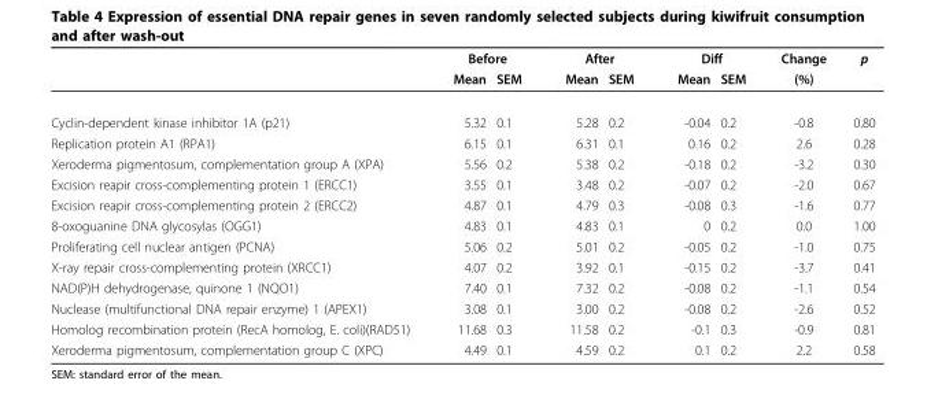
<table><thead><tr><td rowspan="2"></td><td colspan="2">Before</td><td colspan="2">After</td><td colspan="2">Diff</td><td rowspan="2">Change (%)</td><td rowspan="2">p</td></tr><tr><td>Mean</td><td>SEM</td><td>Mean</td><td>SEM</td><td>Mean</td><td>SEM</td></tr></thead><tbody><tr><td>Cyclin-dependent kinase inhibitor 1A (p21)</td><td>5.32</td><td>0.1</td><td>5.28</td><td>0.2</td><td>-0.04</td><td>0.2</td><td>-0.8</td><td>0.80</td></tr><tr><td>Replication protein A1 (RPA1)</td><td>6.15</td><td>0.1</td><td>6.31</td><td>0.1</td><td>0.16</td><td>0.2</td><td>2.6</td><td>0.28</td></tr><tr><td>Xeroderma pigmentosum, complementation group A (XPA)</td><td>5.56</td><td>0.2</td><td>5.38</td><td>0.2</td><td>-0.18</td><td>0.2</td><td>-3.2</td><td>0.30</td></tr><tr><td>Excision reapir cross-complementing protein 1 (ERCC1)</td><td>3.55</td><td>0.1</td><td>3.48</td><td>0.2</td><td>-0.07</td><td>0.2</td><td>-2.0</td><td>0.67</td></tr><tr><td>Excision reapir cross-complementing protein 2 (ERCC2)</td><td>4.87</td><td>0.1</td><td>4.79</td><td>0.3</td><td>-0.08</td><td>0.3</td><td>-1.6</td><td>0.77</td></tr><tr><td>8-oxoguanine DNA glycosylas (OGG1)</td><td>4.83</td><td>0.1</td><td>4.83</td><td>0.1</td><td>0</td><td>0.2</td><td>0.0</td><td>1.00</td></tr><tr><td>Proliferating cell nuclear antigen (PCNA)</td><td>5.06</td><td>0.2</td><td>5.01</td><td>0.2</td><td>-0.05</td><td>0.2</td><td>-1.0</td><td>0.75</td></tr><tr><td>X-ray repair cross-complementing protein (XRCC1)</td><td>4.07</td><td>0.2</td><td>3.92</td><td>0.1</td><td>-0.15</td><td>0.2</td><td>-3.7</td><td>0.41</td></tr><tr><td>NAD(P)H dehydrogenase, quinone 1 (NQO1)</td><td>7.40</td><td>0.1</td><td>7.32</td><td>0.2</td><td>-0.08</td><td>0.2</td><td>-1.1</td><td>0.54</td></tr><tr><td>Nuclease (multifunctional DNA repair enzyme) 1 (APEX1)</td><td>3.08</td><td>0.1</td><td>3.00</td><td>0.2</td><td>-0.08</td><td>0.2</td><td>-2.6</td><td>0.52</td></tr><tr><td>Homolog recombination protein (RecA homolog, E. coli)(RAD51)</td><td>11.68</td><td>0.3</td><td>11.58</td><td>0.2</td><td>-0.1</td><td>0.3</td><td>-0.9</td><td>0.81</td></tr><tr><td>Xeroderma pigmentosum, complementation group C (XPC)</td><td>4.49</td><td>0.1</td><td>4.59</td><td>0.2</td><td>0.1</td><td>0.2</td><td>2.2</td><td>0.58</td></tr></tbody></table>